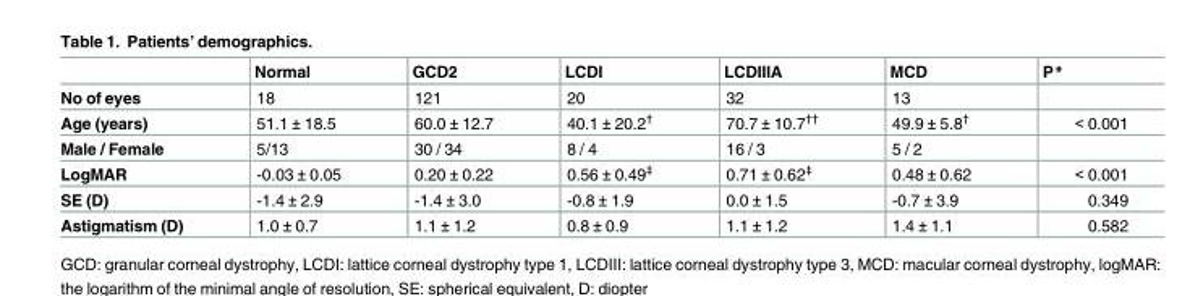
<table><thead><tr><td></td><td>Normal</td><td>GCD2</td><td>LCDI</td><td>LCDIIIA</td><td>MCD</td><td>P*</td></tr></thead><tbody><tr><td>No of eyes</td><td>18</td><td>121</td><td>20</td><td>32</td><td>13</td><td></td></tr><tr><td>Age (years)</td><td>51.1 ± 18.5</td><td>60.0 ± 12.7</td><td>40.1 ± 20.2<sup>†</sup></td><td>70.7 ± 10.7<sup>††</sup></td><td>49.9 ± 5.8<sup>†</sup></td><td>&lt; 0.001</td></tr><tr><td>Male / Female</td><td>5/13</td><td>30 / 34</td><td>8 / 4</td><td>16 / 3</td><td>5 / 2</td><td></td></tr><tr><td>LogMAR</td><td>-0.03 ± 0.05</td><td>0.20 ± 0.22</td><td>0.56 ± 0.49<sup>‡</sup></td><td>0.71 ± 0.62<sup>‡</sup></td><td>0.48 ± 0.62</td><td>&lt; 0.001</td></tr><tr><td>SE (D)</td><td>-1.4 ± 2.9</td><td>-1.4 ± 3.0</td><td>-0.8 ± 1.9</td><td>0.0 ± 1.5</td><td>-0.7 ± 3.9</td><td>0.349</td></tr><tr><td>Astigmatism (D)</td><td>1.0 ± 0.7</td><td>1.1 ± 1.2</td><td>0.8 ± 0.9</td><td>1.1 ± 1.2</td><td>1.4 ± 1.1</td><td>0.582</td></tr></tbody></table>